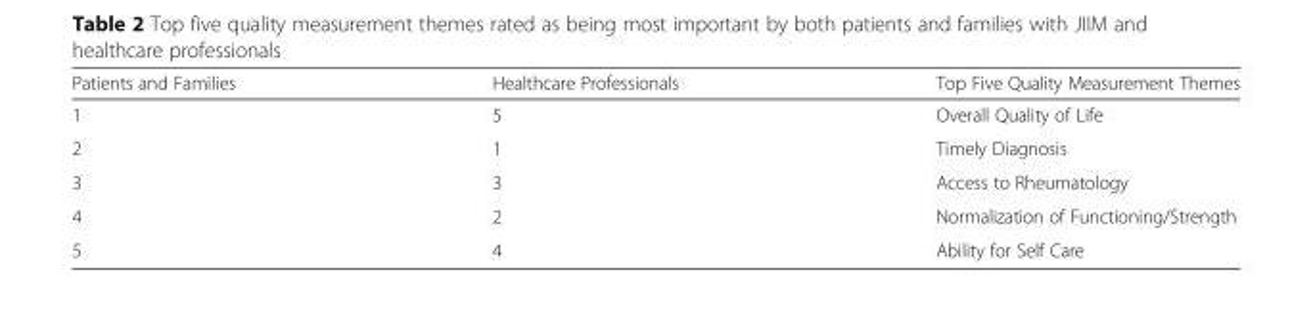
<table><thead><tr><td>Patients and Families</td><td>Healthcare Professionals</td><td>Top Five Quality Measurement Themes</td></tr></thead><tbody><tr><td>1</td><td>5</td><td>Overall Quality of Life</td></tr><tr><td>2</td><td>1</td><td>Timely Diagnosis</td></tr><tr><td>3</td><td>3</td><td>Access to Rheumatology</td></tr><tr><td>4</td><td>2</td><td>Normalization of Functioning/Strength</td></tr><tr><td>5</td><td>4</td><td>Ability for Self Care</td></tr></tbody></table>